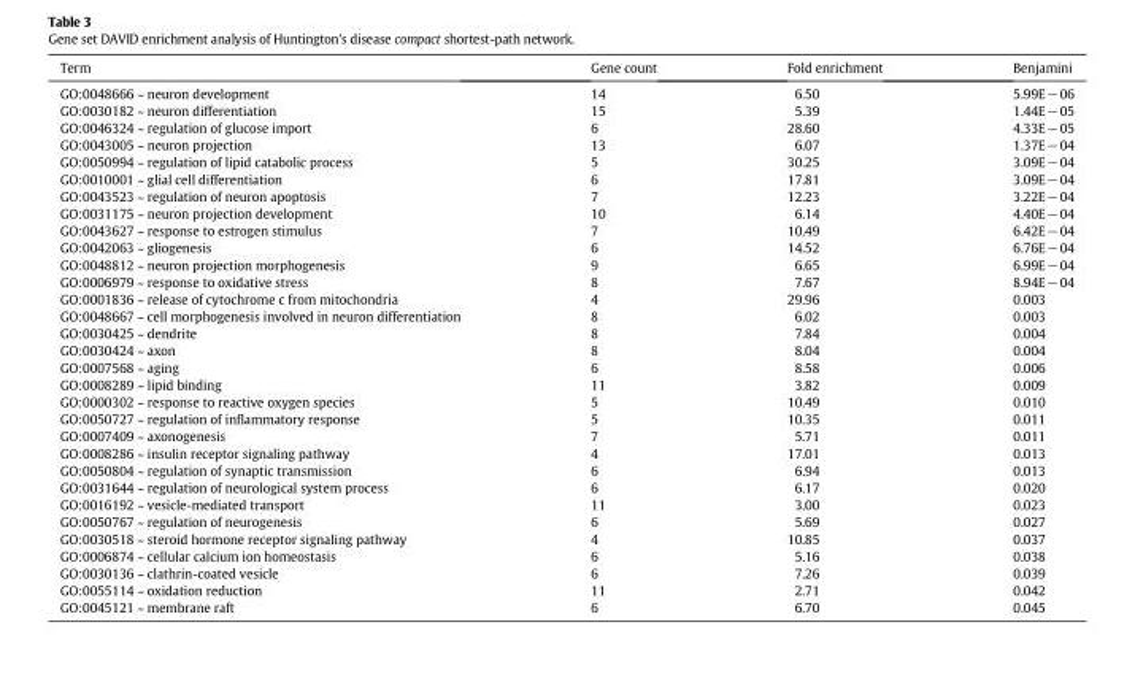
<table><thead><tr><td>Term</td><td>Gene count</td><td>Fold enrichment</td><td>Benjamini</td></tr></thead><tbody><tr><td>GO:0048666 ~ neuron development</td><td>14</td><td>6.50</td><td>5.99E−06</td></tr><tr><td>GO:0030182 ~ neuron differentiation</td><td>15</td><td>5.39</td><td>1.44E−05</td></tr><tr><td>GO:0046324 ~ regulation of glucose import</td><td>6</td><td>28.60</td><td>4.33E−05</td></tr><tr><td>GO:0043005 ~ neuron projection</td><td>13</td><td>6.07</td><td>1.37E−04</td></tr><tr><td>GO:0050994 ~ regulation of lipid catabolic process</td><td>5</td><td>30.25</td><td>3.09E−04</td></tr><tr><td>GO:0010001 ~ glial cell differentiation</td><td>6</td><td>17.81</td><td>3.09E−04</td></tr><tr><td>GO:0043523 ~ regulation of neuron apoptosis</td><td>7</td><td>12.23</td><td>3.22E−04</td></tr><tr><td>GO:0031175 ~ neuron projection development</td><td>10</td><td>6.14</td><td>4.40E−04</td></tr><tr><td>GO:0043627 ~ response to estrogen stimulus</td><td>7</td><td>10.49</td><td>6.42E−04</td></tr><tr><td>GO:0042063 ~ gliogenesis</td><td>6</td><td>14.52</td><td>6.76E−04</td></tr><tr><td>GO:0048812 ~ neuron projection morphogenesis</td><td>9</td><td>6.65</td><td>6.99E−04</td></tr><tr><td>GO:0006979 ~ response to oxidative stress</td><td>8</td><td>7.67</td><td>8.94E−04</td></tr><tr><td>GO:0001836 ~ release of cytochrome c from mitochondria</td><td>4</td><td>29.96</td><td>0.003</td></tr><tr><td>GO:0048667 ~ cell morphogenesis involved in neuron differentiation</td><td>8</td><td>6.02</td><td>0.003</td></tr><tr><td>GO:0030425 ~ dendrite</td><td>8</td><td>7.84</td><td>0.004</td></tr><tr><td>GO:0030424 ~ axon</td><td>8</td><td>8.04</td><td>0.004</td></tr><tr><td>GO:0007568 ~ aging</td><td>6</td><td>8.58</td><td>0.006</td></tr><tr><td>GO:0008289 ~ lipid binding</td><td>11</td><td>3.82</td><td>0.009</td></tr><tr><td>GO:0000302 ~ response to reactive oxygen species</td><td>5</td><td>10.49</td><td>0.010</td></tr><tr><td>GO:0050727 ~ regulation of inflammatory response</td><td>5</td><td>10.35</td><td>0.011</td></tr><tr><td>GO:0007409 ~ axonogenesis</td><td>7</td><td>5.71</td><td>0.011</td></tr><tr><td>GO:0008286 ~ insulin receptor signaling pathway</td><td>4</td><td>17.01</td><td>0.013</td></tr><tr><td>GO:0050804 ~ regulation of synaptic transmission</td><td>6</td><td>6.94</td><td>0.013</td></tr><tr><td>GO:0031644 ~ regulation of neurological system process</td><td>6</td><td>6.17</td><td>0.020</td></tr><tr><td>GO:0016192 ~ vesicle-mediated transport</td><td>11</td><td>3.00</td><td>0.023</td></tr><tr><td>GO:0050767 ~ regulation of neurogenesis</td><td>6</td><td>5.69</td><td>0.027</td></tr><tr><td>GO:0030518 ~ steroid hormone receptor signaling pathway</td><td>4</td><td>10.85</td><td>0.037</td></tr><tr><td>GO:0006874 ~ cellular calcium ion homeostasis</td><td>6</td><td>5.16</td><td>0.038</td></tr><tr><td>GO:0030136 ~ clathrin-coated vesicle</td><td>6</td><td>7.26</td><td>0.039</td></tr><tr><td>GO:0055114 ~ oxidation reduction</td><td>11</td><td>2.71</td><td>0.042</td></tr><tr><td>GO:0045121 ~ membrane raft</td><td>6</td><td>6.70</td><td>0.045</td></tr></tbody></table>